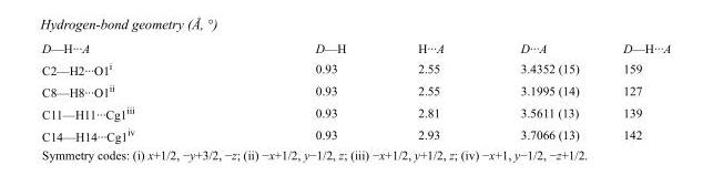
<table><tbody><tr><td>D—H···A</td><td>D—H</td><td>H···A</td><td>D···A</td><td>D—H···A</td></tr><tr><td>C2—H2···O1<sup>i</sup></td><td>0.93</td><td>2.55</td><td>3.4352 (15)</td><td>159</td></tr><tr><td>C8—H8···O1<sup>ii</sup></td><td>0.93</td><td>2.55</td><td>3.1995 (14)</td><td>127</td></tr><tr><td>C11—H11···Cg1<sup>iii</sup></td><td>0.93</td><td>2.81</td><td>3.5611 (13)</td><td>139</td></tr><tr><td>C14—H14···Cg1<sup>iv</sup></td><td>0.93</td><td>2.93</td><td>3.7066 (13)</td><td>142</td></tr></tbody></table>